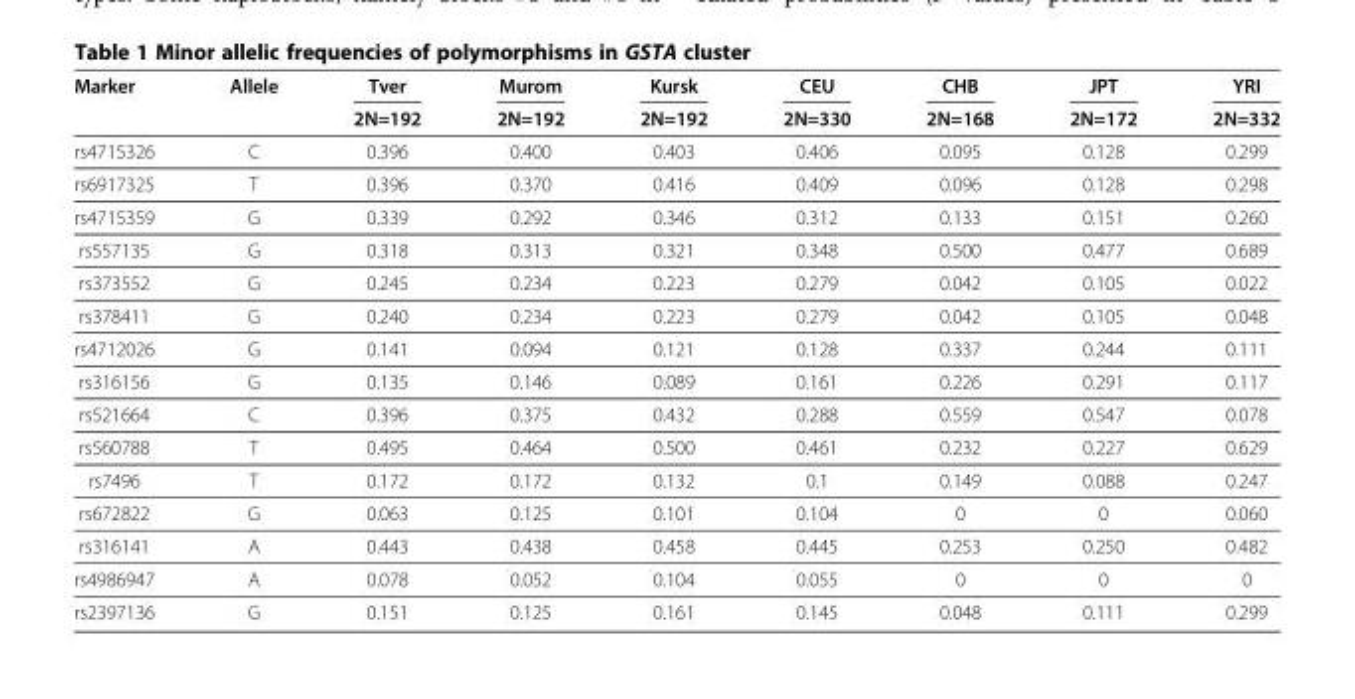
<table><thead><tr><td rowspan="2">Marker</td><td rowspan="2">Allele</td><td rowspan="2">Tver 2N=192</td><td rowspan="2">Murom 2N=192</td><td rowspan="2">Kursk 2N=192</td><td rowspan="2">CEU 2N=330</td><td rowspan="2">CHB 2N=168</td><td rowspan="2">JPT 2N=172</td><td rowspan="2">YRI 2N=332</td></tr><tr></tr></thead><tbody><tr><td>rs4715326</td><td>C</td><td>0.396</td><td>0.400</td><td>0.403</td><td>0.406</td><td>0.095</td><td>0.128</td><td>0.299</td></tr><tr><td>rs6917325</td><td>T</td><td>0.396</td><td>0.370</td><td>0.416</td><td>0.409</td><td>0.096</td><td>0.128</td><td>0.298</td></tr><tr><td>rs4715359</td><td>G</td><td>0.339</td><td>0.292</td><td>0.346</td><td>0.312</td><td>0.133</td><td>0.151</td><td>0.260</td></tr><tr><td>rs557135</td><td>G</td><td>0.318</td><td>0.313</td><td>0.321</td><td>0.348</td><td>0.500</td><td>0.477</td><td>0.689</td></tr><tr><td>rs373552</td><td>G</td><td>0.245</td><td>0.234</td><td>0.223</td><td>0.279</td><td>0.042</td><td>0.105</td><td>0.022</td></tr><tr><td>rs378411</td><td>G</td><td>0.240</td><td>0.234</td><td>0.223</td><td>0.279</td><td>0.042</td><td>0.105</td><td>0.048</td></tr><tr><td>rs4712026</td><td>G</td><td>0.141</td><td>0.094</td><td>0.121</td><td>0.128</td><td>0.337</td><td>0.244</td><td>0.111</td></tr><tr><td>rs316156</td><td>G</td><td>0.135</td><td>0.146</td><td>0.089</td><td>0.161</td><td>0.226</td><td>0.291</td><td>0.117</td></tr><tr><td>rs521664</td><td>C</td><td>0.396</td><td>0.375</td><td>0.432</td><td>0.288</td><td>0.559</td><td>0.547</td><td>0.078</td></tr><tr><td>rs560788</td><td>T</td><td>0.495</td><td>0.464</td><td>0.500</td><td>0.461</td><td>0.232</td><td>0.227</td><td>0.629</td></tr><tr><td>rs7496</td><td>T</td><td>0.172</td><td>0.172</td><td>0.132</td><td>0.1</td><td>0.149</td><td>0.088</td><td>0.247</td></tr><tr><td>rs672822</td><td>G</td><td>0.063</td><td>0.125</td><td>0.101</td><td>0.104</td><td>0</td><td>0</td><td>0.060</td></tr><tr><td>rs316141</td><td>A</td><td>0.443</td><td>0.438</td><td>0.458</td><td>0.445</td><td>0.253</td><td>0.250</td><td>0.482</td></tr><tr><td>rs4986947</td><td>A</td><td>0.078</td><td>0.052</td><td>0.104</td><td>0.055</td><td>0</td><td>0</td><td>0</td></tr><tr><td>rs2397136</td><td>G</td><td>0.151</td><td>0.125</td><td>0.161</td><td>0.145</td><td>0.048</td><td>0.111</td><td>0.299</td></tr></tbody></table>